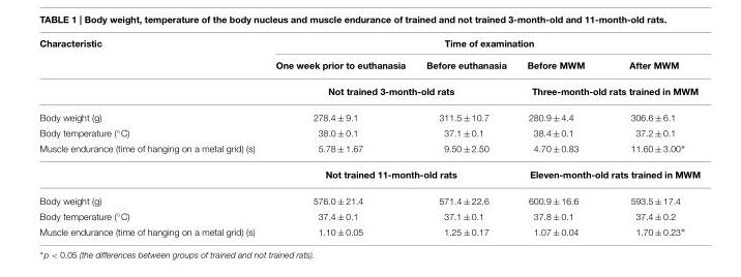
<table><thead><tr><td rowspan="2">Characteristic</td><td colspan="4">Time of examination</td></tr><tr><td>One week prior to euthanasia</td><td>Before euthanasia</td><td>Before MWM</td><td>After MWM</td></tr></thead><tbody><tr><td></td><td colspan="2">Not trained 3-month-old rats</td><td colspan="2">Three-month-old rats trained in MWM</td></tr><tr><td>Body weight (g)</td><td>278.4 ± 9.1</td><td>311.5 ± 10.7</td><td>280.9 ± 4.4</td><td>306.6 ± 6.1</td></tr><tr><td>Body temperature (◦C)</td><td>38.0 ± 0.1</td><td>37.1 ± 0.1</td><td>38.4 ± 0.1</td><td>37.2 ± 0.1</td></tr><tr><td rowspan="2">Muscle endurance (time of hanging on a metal grid) (s)</td><td>5.78 ± 1.67</td><td>9.50 ± 2.50</td><td>4.70 ± 0.83</td><td>11.60 ± 3.00∗</td></tr><tr><td colspan="2">Not trained 11-month-old rats</td><td colspan="2">Eleven-month-old rats trained in MWM</td></tr><tr><td>Body weight (g)</td><td>576.0 ± 21.4</td><td>571.4 ± 22.6</td><td>600.9 ± 16.6</td><td>593.5 ± 17.4</td></tr><tr><td>Body temperature (◦C)</td><td>37.4 ± 0.1</td><td>37.1 ± 0.1</td><td>37.8 ± 0.1</td><td>37.4 ± 0.2</td></tr><tr><td>Muscle endurance (time of hanging on a metal grid) (s)</td><td>1.10 ± 0.05</td><td>1.25 ± 0.17</td><td>1.07 ± 0.04</td><td>1.70 ± 0.23∗</td></tr></tbody></table>